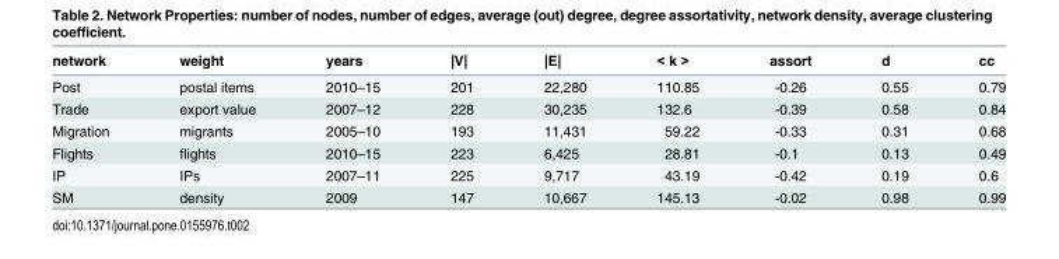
<table><thead><tr><td>network</td><td>weight</td><td>years</td><td>|V|</td><td>|E|</td><td>&lt; k &gt;</td><td>assort</td><td>d</td><td>cc</td></tr></thead><tbody><tr><td>Post</td><td>postal items</td><td>2010–15</td><td>201</td><td>22,280</td><td>110.85</td><td>-0.26</td><td>0.55</td><td>0.79</td></tr><tr><td>Trade</td><td>export value</td><td>2007–12</td><td>228</td><td>30,235</td><td>132.6</td><td>-0.39</td><td>0.58</td><td>0.84</td></tr><tr><td>Migration</td><td>migrants</td><td>2005–10</td><td>193</td><td>11,431</td><td>59.22</td><td>-0.33</td><td>0.31</td><td>0.68</td></tr><tr><td>Flights</td><td>flights</td><td>2010–15</td><td>223</td><td>6,425</td><td>28.81</td><td>-0.1</td><td>0.13</td><td>0.49</td></tr><tr><td>IP</td><td>IPs</td><td>2007–11</td><td>225</td><td>9,717</td><td>43.19</td><td>-0.42</td><td>0.19</td><td>0.6</td></tr><tr><td>SM</td><td>density</td><td>2009</td><td>147</td><td>10,667</td><td>145.13</td><td>-0.02</td><td>0.98</td><td>0.99</td></tr></tbody></table>